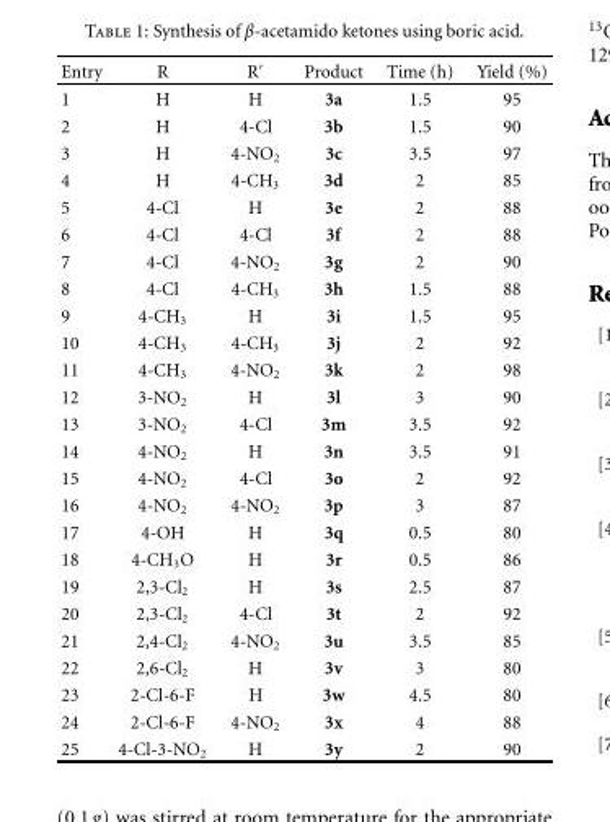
<table><thead><tr><td>Entry</td><td>R</td><td>R′</td><td>Product</td><td>Time (h)</td><td>Yield (%)</td></tr></thead><tbody><tr><td>1</td><td>H</td><td>H</td><td>3a</td><td>1.5</td><td>95</td></tr><tr><td>2</td><td>H</td><td>4-Cl</td><td>3b</td><td>1.5</td><td>90</td></tr><tr><td>3</td><td>H</td><td>4-NO<sub>2</sub></td><td>3c</td><td>3.5</td><td>97</td></tr><tr><td>4</td><td>H</td><td>4-CH<sub>3</sub></td><td>3d</td><td>2</td><td>85</td></tr><tr><td>5</td><td>4-Cl</td><td>H</td><td>3e</td><td>2</td><td>88</td></tr><tr><td>6</td><td>4-Cl</td><td>4-Cl</td><td>3f</td><td>2</td><td>88</td></tr><tr><td>7</td><td>4-Cl</td><td>4-NO<sub>2</sub></td><td>3g</td><td>2</td><td>90</td></tr><tr><td>8</td><td>4-Cl</td><td>4-CH<sub>3</sub></td><td>3h</td><td>1.5</td><td>88</td></tr><tr><td>9</td><td>4-CH<sub>3</sub></td><td>H</td><td>3i</td><td>1.5</td><td>95</td></tr><tr><td>10</td><td>4-CH<sub>3</sub></td><td>4-CH<sub>3</sub></td><td>3j</td><td>2</td><td>92</td></tr><tr><td>11</td><td>4-CH<sub>3</sub></td><td>4-NO<sub>2</sub></td><td>3k</td><td>2</td><td>98</td></tr><tr><td>12</td><td>3-NO<sub>2</sub></td><td>H</td><td>3l</td><td>3</td><td>90</td></tr><tr><td>13</td><td>3-NO<sub>2</sub></td><td>4-Cl</td><td>3m</td><td>3.5</td><td>92</td></tr><tr><td>14</td><td>4-NO<sub>2</sub></td><td>H</td><td>3n</td><td>3.5</td><td>91</td></tr><tr><td>15</td><td>4-NO<sub>2</sub></td><td>4-Cl</td><td>3o</td><td>2</td><td>92</td></tr><tr><td>16</td><td>4-NO<sub>2</sub></td><td>4-NO<sub>2</sub></td><td>3p</td><td>3</td><td>87</td></tr><tr><td>17</td><td>4-OH</td><td>H</td><td>3q</td><td>0.5</td><td>80</td></tr><tr><td>18</td><td>4-CH<sub>3</sub>O</td><td>H</td><td>3r</td><td>0.5</td><td>86</td></tr><tr><td>19</td><td>2,3-Cl<sub>2</sub></td><td>H</td><td>3s</td><td>2.5</td><td>87</td></tr><tr><td>20</td><td>2,3-Cl<sub>2</sub></td><td>4-Cl</td><td>3t</td><td>2</td><td>92</td></tr><tr><td>21</td><td>2,4-Cl<sub>2</sub></td><td>4-NO<sub>2</sub></td><td>3u</td><td>3.5</td><td>85</td></tr><tr><td>22</td><td>2,6-Cl<sub>2</sub></td><td>H</td><td>3v</td><td>3</td><td>80</td></tr><tr><td>23</td><td>2-Cl-6-F</td><td>H</td><td>3w</td><td>4.5</td><td>80</td></tr><tr><td>24</td><td>2-Cl-6-F</td><td>4-NO<sub>2</sub></td><td>3x</td><td>4</td><td>88</td></tr><tr><td>25</td><td>4-Cl-3-NO<sub>2</sub></td><td>H</td><td>3y</td><td>2</td><td>90</td></tr></tbody></table>